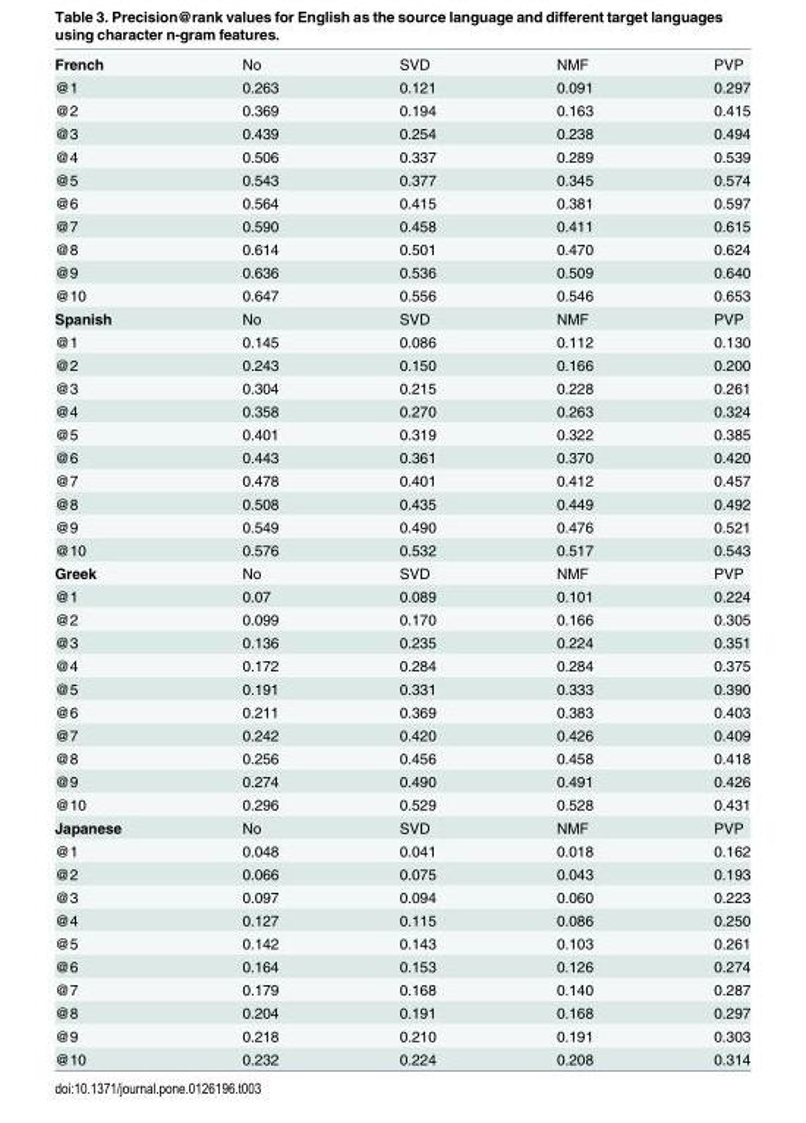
<table><tbody><tr><td>French</td><td>No</td><td>SVD</td><td>NMF</td><td>PVP</td></tr><tr><td>@1</td><td>0.263</td><td>0.121</td><td>0.091</td><td>0.297</td></tr><tr><td>@2</td><td>0.369</td><td>0.194</td><td>0.163</td><td>0.415</td></tr><tr><td>@3</td><td>0.439</td><td>0.254</td><td>0.238</td><td>0.494</td></tr><tr><td>@4</td><td>0.506</td><td>0.337</td><td>0.289</td><td>0.539</td></tr><tr><td>@5</td><td>0.543</td><td>0.377</td><td>0.345</td><td>0.574</td></tr><tr><td>@6</td><td>0.564</td><td>0.415</td><td>0.381</td><td>0.597</td></tr><tr><td>@7</td><td>0.590</td><td>0.458</td><td>0.411</td><td>0.615</td></tr><tr><td>@8</td><td>0.614</td><td>0.501</td><td>0.470</td><td>0.624</td></tr><tr><td>@9</td><td>0.636</td><td>0.536</td><td>0.509</td><td>0.640</td></tr><tr><td>@10</td><td>0.647</td><td>0.556</td><td>0.546</td><td>0.653</td></tr><tr><td>Spanish</td><td>No</td><td>SVD</td><td>NMF</td><td>PVP</td></tr><tr><td>@1</td><td>0.145</td><td>0.086</td><td>0.112</td><td>0.130</td></tr><tr><td>@2</td><td>0.243</td><td>0.150</td><td>0.166</td><td>0.200</td></tr><tr><td>@3</td><td>0.304</td><td>0.215</td><td>0.228</td><td>0.261</td></tr><tr><td>@4</td><td>0.358</td><td>0.270</td><td>0.263</td><td>0.324</td></tr><tr><td>@5</td><td>0.401</td><td>0.319</td><td>0.322</td><td>0.385</td></tr><tr><td>@6</td><td>0.443</td><td>0.361</td><td>0.370</td><td>0.420</td></tr><tr><td>@7</td><td>0.478</td><td>0.401</td><td>0.412</td><td>0.457</td></tr><tr><td>@8</td><td>0.508</td><td>0.435</td><td>0.449</td><td>0.492</td></tr><tr><td>@9</td><td>0.549</td><td>0.490</td><td>0.476</td><td>0.521</td></tr><tr><td>@10</td><td>0.576</td><td>0.532</td><td>0.517</td><td>0.543</td></tr><tr><td>Greek</td><td>No</td><td>SVD</td><td>NMF</td><td>PVP</td></tr><tr><td>@1</td><td>0.07</td><td>0.089</td><td>0.101</td><td>0.224</td></tr><tr><td>@2</td><td>0.099</td><td>0.170</td><td>0.166</td><td>0.305</td></tr><tr><td>@3</td><td>0.136</td><td>0.235</td><td>0.224</td><td>0.351</td></tr><tr><td>@4</td><td>0.172</td><td>0.284</td><td>0.284</td><td>0.375</td></tr><tr><td>@5</td><td>0.191</td><td>0.331</td><td>0.333</td><td>0.390</td></tr><tr><td>@6</td><td>0.211</td><td>0.369</td><td>0.383</td><td>0.403</td></tr><tr><td>@7</td><td>0.242</td><td>0.420</td><td>0.426</td><td>0.409</td></tr><tr><td>@8</td><td>0.256</td><td>0.456</td><td>0.458</td><td>0.418</td></tr><tr><td>@9</td><td>0.274</td><td>0.490</td><td>0.491</td><td>0.426</td></tr><tr><td>@10</td><td>0.296</td><td>0.529</td><td>0.528</td><td>0.431</td></tr><tr><td>Japanese</td><td>No</td><td>SVD</td><td>NMF</td><td>PVP</td></tr><tr><td>@1</td><td>0.048</td><td>0.041</td><td>0.018</td><td>0.162</td></tr><tr><td>@2</td><td>0.066</td><td>0.075</td><td>0.043</td><td>0.193</td></tr><tr><td>@3</td><td>0.097</td><td>0.094</td><td>0.060</td><td>0.223</td></tr><tr><td>@4</td><td>0.127</td><td>0.115</td><td>0.086</td><td>0.250</td></tr><tr><td>@5</td><td>0.142</td><td>0.143</td><td>0.103</td><td>0.261</td></tr><tr><td>@6</td><td>0.164</td><td>0.153</td><td>0.126</td><td>0.274</td></tr><tr><td>@7</td><td>0.179</td><td>0.168</td><td>0.140</td><td>0.287</td></tr><tr><td>@8</td><td>0.204</td><td>0.191</td><td>0.168</td><td>0.297</td></tr><tr><td>@9</td><td>0.218</td><td>0.210</td><td>0.191</td><td>0.303</td></tr><tr><td>@10</td><td>0.232</td><td>0.224</td><td>0.208</td><td>0.314</td></tr></tbody></table>